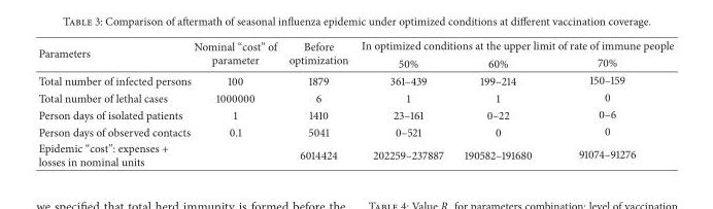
<table><thead><tr><td rowspan="2">Parameters</td><td rowspan="2">Nominal “cost” of parameter</td><td rowspan="2">Before optimization</td><td colspan="3">In optimized conditions at the upper limit of rate of immune people</td></tr><tr><td>50%</td><td>60%</td><td>70%</td></tr></thead><tbody><tr><td>Total number of infected persons</td><td>100</td><td>1879</td><td>361–439</td><td>199–214</td><td>150–159</td></tr><tr><td>Total number of lethal cases</td><td>1000000</td><td>6</td><td>1</td><td>1</td><td>0</td></tr><tr><td>Person days of isolated patients</td><td>1</td><td>1410</td><td>23–161</td><td>0–22</td><td>0–6</td></tr><tr><td>Person days of observed contacts</td><td>0.1</td><td>5041</td><td>0–521</td><td>0</td><td>0</td></tr><tr><td>Epidemic “cost”: expenses + losses in nominal units</td><td></td><td>6014424</td><td>202259–237887</td><td>190582–191680</td><td>91074–91276</td></tr></tbody></table>